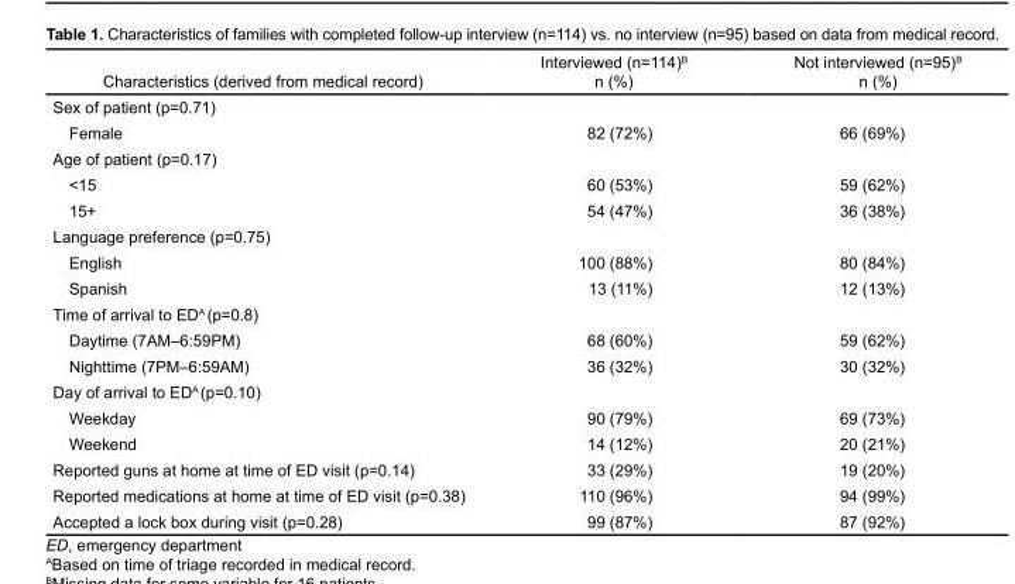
<table><thead><tr><td>Characteristics (derived from medical record)</td><td>Interviewed (n=114)<sup>B</sup> n (%)</td><td>Not interviewed (n=95)<sup>B</sup> n (%)</td></tr></thead><tbody><tr><td colspan="3">Sex of patient (p=0.71)</td></tr><tr><td>Female</td><td>82 (72%)</td><td>66 (69%)</td></tr><tr><td colspan="3">Age of patient (p=0.17)</td></tr><tr><td>&lt;15</td><td>60 (53%)</td><td>59 (62%)</td></tr><tr><td>15+</td><td>54 (47%)</td><td>36 (38%)</td></tr><tr><td colspan="3">Language preference (p=0.75)</td></tr><tr><td>English</td><td>100 (88%)</td><td>80 (84%)</td></tr><tr><td>Spanish</td><td>13 (11%)</td><td>12 (13%)</td></tr><tr><td colspan="3">Time of arrival to ED<sup>A</sup> (p=0.8)</td></tr><tr><td>Daytime (7AM–6:59PM)</td><td>68 (60%)</td><td>59 (62%)</td></tr><tr><td>Nighttime (7PM–6:59AM)</td><td>36 (32%)</td><td>30 (32%)</td></tr><tr><td colspan="3">Day of arrival to ED<sup>A</sup> (p=0.10)</td></tr><tr><td>Weekday</td><td>90 (79%)</td><td>69 (73%)</td></tr><tr><td>Weekend</td><td>14 (12%)</td><td>20 (21%)</td></tr><tr><td>Reported guns at home at time of ED visit (p=0.14)</td><td>33 (29%)</td><td>19 (20%)</td></tr><tr><td>Reported medications at home at time of ED visit (p=0.38)</td><td>110 (96%)</td><td>94 (99%)</td></tr><tr><td>Accepted a lock box during visit (p=0.28)</td><td>99 (87%)</td><td>87 (92%)</td></tr></tbody></table>